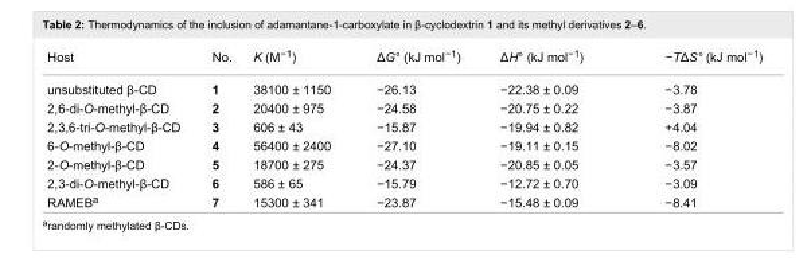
<table><tbody><tr><td>Host</td><td>No.</td><td>K (M<sup>−1</sup>)</td><td>ΔG° (kJ mol<sup>−1</sup>)</td><td>ΔH° (kJ mol<sup>−1</sup>)</td><td>−TΔS° (kJ mol<sup>−1</sup>)</td></tr><tr><td>unsubstituted β-CD</td><td>1</td><td>38100 ± 1150</td><td>−26.13</td><td>−22.38 ± 0.09</td><td>−3.78</td></tr><tr><td>2,6-di-O-methyl-β-CD</td><td>2</td><td>20400 ± 975</td><td>−24.58</td><td>−20.75 ± 0.22</td><td>−3.87</td></tr><tr><td>2,3,6-tri-O-methyl-β-CD</td><td>3</td><td>606 ± 43</td><td>−15.87</td><td>−19.94 ± 0.82</td><td>+4.04</td></tr><tr><td>6-O-methyl-β-CD</td><td>4</td><td>56400 ± 2400</td><td>−27.10</td><td>−19.11 ± 0.15</td><td>−8.02</td></tr><tr><td>2-O-methyl-β-CD</td><td>5</td><td>18700 ± 275</td><td>−24.37</td><td>−20.85 ± 0.05</td><td>−3.57</td></tr><tr><td>2,3-di-O-methyl-β-CD</td><td>6</td><td>586 ± 65</td><td>−15.79</td><td>−12.72 ± 0.70</td><td>−3.09</td></tr><tr><td>RAMEB<sup>a</sup></td><td>7</td><td>15300 ± 341</td><td>−23.87</td><td>−15.48 ± 0.09</td><td>−8.41</td></tr></tbody></table>